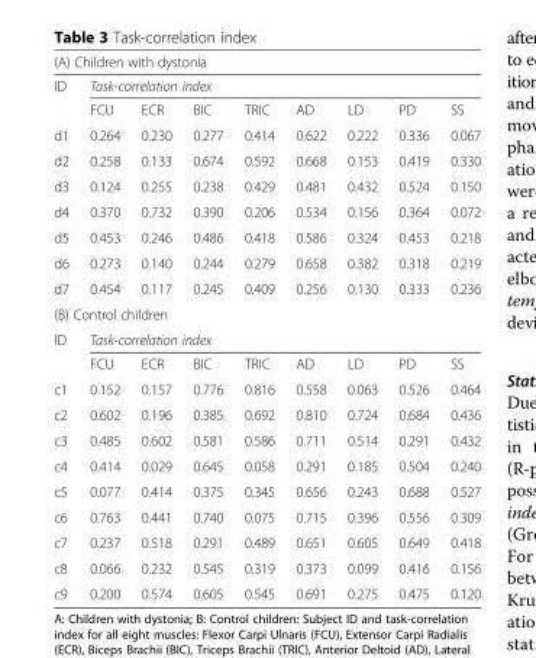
<table><thead><tr><td colspan="9">(A) Children with dystonia</td></tr><tr><td rowspan="2">ID</td><td colspan="8">Task-correlation index</td></tr><tr><td>FCU</td><td>ECR</td><td>BIC</td><td>TRIC</td><td>AD</td><td>LD</td><td>PD</td><td>SS</td></tr></thead><tbody><tr><td>d1</td><td>0.264</td><td>0.230</td><td>0.277</td><td>0.414</td><td>0.622</td><td>0.222</td><td>0.336</td><td>0.067</td></tr><tr><td>d2</td><td>0.258</td><td>0.133</td><td>0.674</td><td>0.592</td><td>0.668</td><td>0.153</td><td>0.419</td><td>0.330</td></tr><tr><td>d3</td><td>0.124</td><td>0.255</td><td>0.238</td><td>0.429</td><td>0.481</td><td>0.432</td><td>0.524</td><td>0.150</td></tr><tr><td>d4</td><td>0.370</td><td>0.732</td><td>0.390</td><td>0.206</td><td>0.534</td><td>0.156</td><td>0.364</td><td>0.072</td></tr><tr><td>d5</td><td>0.453</td><td>0.246</td><td>0.486</td><td>0.418</td><td>0.586</td><td>0.324</td><td>0.453</td><td>0.218</td></tr><tr><td>d6</td><td>0.273</td><td>0.140</td><td>0.244</td><td>0.279</td><td>0.658</td><td>0.382</td><td>0.318</td><td>0.219</td></tr><tr><td>d7</td><td>0.454</td><td>0.117</td><td>0.245</td><td>0.409</td><td>0.256</td><td>0.130</td><td>0.333</td><td>0.236</td></tr><tr><td colspan="9">(B) Control children</td></tr><tr><td rowspan="2">ID</td><td colspan="8">Task-correlation index</td></tr><tr><td>FCU</td><td>ECR</td><td>BIC</td><td>TRIC</td><td>AD</td><td>LD</td><td>PD</td><td>SS</td></tr><tr><td>c1</td><td>0.152</td><td>0.157</td><td>0.776</td><td>0.816</td><td>0.558</td><td>0.063</td><td>0.526</td><td>0.464</td></tr><tr><td>c2</td><td>0.602</td><td>0.196</td><td>0.385</td><td>0.692</td><td>0.810</td><td>0.724</td><td>0.684</td><td>0.436</td></tr><tr><td>c3</td><td>0.485</td><td>0.602</td><td>0.581</td><td>0.586</td><td>0.711</td><td>0.514</td><td>0.291</td><td>0.432</td></tr><tr><td>c4</td><td>0.414</td><td>0.029</td><td>0.645</td><td>0.058</td><td>0.291</td><td>0.185</td><td>0.504</td><td>0.240</td></tr><tr><td>c5</td><td>0.077</td><td>0.414</td><td>0.375</td><td>0.345</td><td>0.656</td><td>0.243</td><td>0.688</td><td>0.527</td></tr><tr><td>c6</td><td>0.763</td><td>0.441</td><td>0.740</td><td>0.075</td><td>0.715</td><td>0.396</td><td>0.556</td><td>0.309</td></tr><tr><td>c7</td><td>0.237</td><td>0.518</td><td>0.291</td><td>0.489</td><td>0.651</td><td>0.605</td><td>0.649</td><td>0.418</td></tr><tr><td>c8</td><td>0.066</td><td>0.232</td><td>0.545</td><td>0.319</td><td>0.373</td><td>0.099</td><td>0.416</td><td>0.156</td></tr><tr><td>c9</td><td>0.200</td><td>0.574</td><td>0.605</td><td>0.545</td><td>0.691</td><td>0.275</td><td>0.475</td><td>0.120</td></tr></tbody></table>